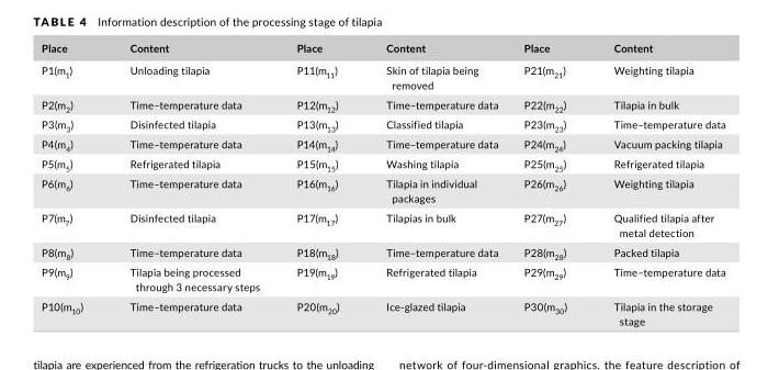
<table><thead><tr><td>Place</td><td>Content</td><td>Place</td><td>Content</td><td>Place</td><td>Content</td></tr></thead><tbody><tr><td>P1(m<sub>1</sub>)</td><td>Unloading tilapia</td><td>P11(m<sub>11</sub>)</td><td>Skin of tilapia being removed</td><td>P21(m<sub>21</sub>)</td><td>Weighting tilapia</td></tr><tr><td>P2(m<sub>2</sub>)</td><td>Time–temperature data</td><td>P12(m<sub>12</sub>)</td><td>Time–temperature data</td><td>P22(m<sub>22</sub>)</td><td>Tilapia in bulk</td></tr><tr><td>P3(m<sub>3</sub>)</td><td>Disinfected tilapia</td><td>P13(m<sub>13</sub>)</td><td>Classified tilapia</td><td>P23(m<sub>23</sub>)</td><td>Time–temperature data</td></tr><tr><td>P4(m<sub>4</sub>)</td><td>Time–temperature data</td><td>P14(m<sub>14</sub>)</td><td>Time–temperature data</td><td>P24(m<sub>24</sub>)</td><td>Vacuum packing tilapia</td></tr><tr><td>P5(m<sub>5</sub>)</td><td>Refrigerated tilapia</td><td>P15(m<sub>15</sub>)</td><td>Washing tilapia</td><td>P25(m<sub>25</sub>)</td><td>Refrigerated tilapia</td></tr><tr><td>P6(m<sub>6</sub>)</td><td>Time–temperature data</td><td>P16(m<sub>16</sub>)</td><td>Tilapia in individual packages</td><td>P26(m<sub>26</sub>)</td><td>Weighting tilapia</td></tr><tr><td>P7(m<sub>7</sub>)</td><td>Disinfected tilapia</td><td>P17(m<sub>17</sub>)</td><td>Tilapias in bulk</td><td>P27(m<sub>27</sub>)</td><td>Qualified tilapia after metal detection</td></tr><tr><td>P8(m<sub>8</sub>)</td><td>Time–temperature data</td><td>P18(m<sub>18</sub>)</td><td>Time–temperature data</td><td>P28(m<sub>28</sub>)</td><td>Packed tilapia</td></tr><tr><td>P9(m<sub>9</sub>)</td><td>Tilapia being processed through 3 necessary steps</td><td>P19(m<sub>19</sub>)</td><td>Refrigerated tilapia</td><td>P29(m<sub>29</sub>)</td><td>Time–temperature data</td></tr><tr><td>P10(m<sub>10</sub>)</td><td>Time–temperature data</td><td>P20(m<sub>20</sub>)</td><td>Ice- glazed tilapia</td><td>P30(m<sub>30</sub>)</td><td>Tilapia in the storage stage</td></tr></tbody></table>